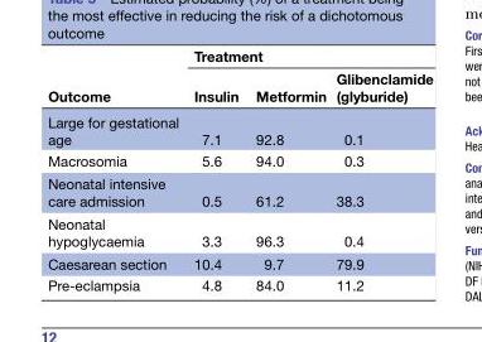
<table><thead><tr><td rowspan="2">Outcome</td><td colspan="3">Treatment</td></tr><tr><td>Insulin</td><td>Metformin</td><td>Glibenclamide (glyburide)</td></tr></thead><tbody><tr><td>Large for gestational age</td><td>7.1</td><td>92.8</td><td>0.1</td></tr><tr><td>Macrosomia</td><td>5.6</td><td>94.0</td><td>0.3</td></tr><tr><td>Neonatal intensive care admission</td><td>0.5</td><td>61.2</td><td>38.3</td></tr><tr><td>Neonatal hypoglycaemia</td><td>3.3</td><td>96.3</td><td>0.4</td></tr><tr><td>Caesarean section</td><td>10.4</td><td>9.7</td><td>79.9</td></tr><tr><td>Pre-eclampsia</td><td>4.8</td><td>84.0</td><td>11.2</td></tr></tbody></table>